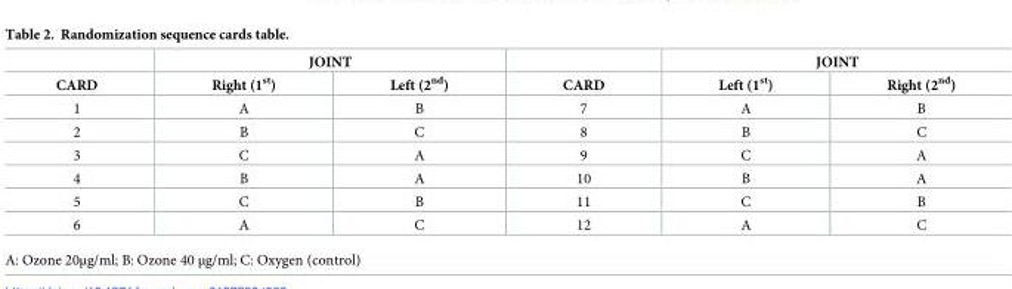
<table><thead><tr><td rowspan="2">CARD</td><td colspan="2">JOINT</td><td rowspan="2">CARD</td><td colspan="2">JOINT</td></tr><tr><td>Right (1<sup>st</sup>)</td><td>Left (2<sup>nd</sup>)</td><td>Left (1<sup>st</sup>)</td><td>Right (2<sup>nd</sup>)</td></tr></thead><tbody><tr><td>1</td><td>A</td><td>B</td><td>7</td><td>A</td><td>B</td></tr><tr><td>2</td><td>B</td><td>C</td><td>8</td><td>B</td><td>C</td></tr><tr><td>3</td><td>C</td><td>A</td><td>9</td><td>C</td><td>A</td></tr><tr><td>4</td><td>B</td><td>A</td><td>10</td><td>B</td><td>A</td></tr><tr><td>5</td><td>C</td><td>B</td><td>11</td><td>C</td><td>B</td></tr><tr><td>6</td><td>A</td><td>C</td><td>12</td><td>A</td><td>C</td></tr></tbody></table>